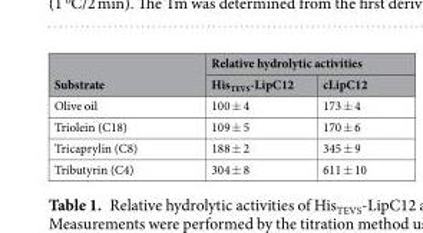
<table><thead><tr><td rowspan="2">Substrate</td><td colspan="2">Relative hydrolytic activities</td></tr><tr><td>His<sub>TEVS</sub>-LipC12</td><td>cLipC12</td></tr></thead><tbody><tr><td>Olive oil</td><td>100 ± 4</td><td>173 ± 4</td></tr><tr><td>Triolein (C18)</td><td>109 ± 5</td><td>170 ± 6</td></tr><tr><td>Tricaprylin (C8)</td><td>188 ± 2</td><td>345 ± 9</td></tr><tr><td>Tributyrin (C4)</td><td>304 ± 8</td><td>611 ± 10</td></tr></tbody></table>